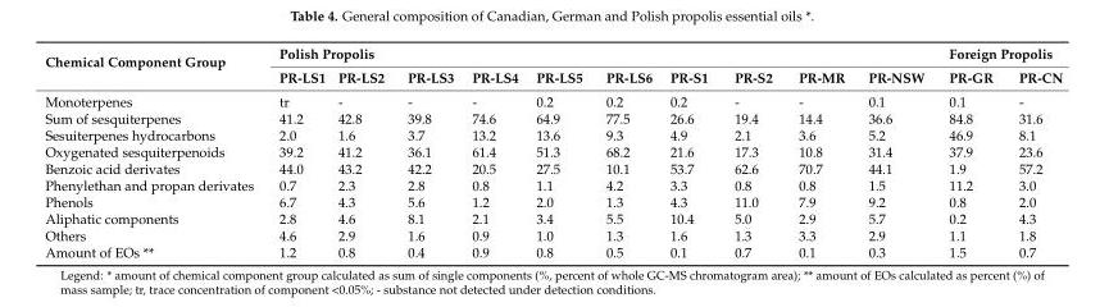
<table><thead><tr><td rowspan="2">Chemical Component Group</td><td colspan="10">Polish Propolis</td><td colspan="2">Foreign Propolis</td></tr><tr><td>PR-LS1</td><td>PR-LS2</td><td>PR-LS3</td><td>PR-LS4</td><td>PR-LS5</td><td>PR-LS6</td><td>PR-S1</td><td>PR-S2</td><td>PR-MR</td><td>PR-NSW</td><td>PR-GR</td><td>PR-CN</td></tr></thead><tbody><tr><td>Monoterpenes</td><td>tr</td><td>-</td><td>-</td><td>-</td><td>0.2</td><td>0.2</td><td>0.2</td><td>-</td><td>-</td><td>0.1</td><td>0.1</td><td>-</td></tr><tr><td>Sum of sesquiterpenes</td><td>41.2</td><td>42.8</td><td>39.8</td><td>74.6</td><td>64.9</td><td>77.5</td><td>26.6</td><td>19.4</td><td>14.4</td><td>36.6</td><td>84.8</td><td>31.6</td></tr><tr><td>Sesuiterpenes hydrocarbons</td><td>2.0</td><td>1.6</td><td>3.7</td><td>13.2</td><td>13.6</td><td>9.3</td><td>4.9</td><td>2.1</td><td>3.6</td><td>5.2</td><td>46.9</td><td>8.1</td></tr><tr><td>Oxygenated sesquiterpenoids</td><td>39.2</td><td>41.2</td><td>36.1</td><td>61.4</td><td>51.3</td><td>68.2</td><td>21.6</td><td>17.3</td><td>10.8</td><td>31.4</td><td>37.9</td><td>23.6</td></tr><tr><td>Benzoic acid derivates</td><td>44.0</td><td>43.2</td><td>42.2</td><td>20.5</td><td>27.5</td><td>10.1</td><td>53.7</td><td>62.6</td><td>70.7</td><td>44.1</td><td>1.9</td><td>57.2</td></tr><tr><td>Phenylethan and propan derivates</td><td>0.7</td><td>2.3</td><td>2.8</td><td>0.8</td><td>1.1</td><td>4.2</td><td>3.3</td><td>0.8</td><td>0.8</td><td>1.5</td><td>11.2</td><td>3.0</td></tr><tr><td>Phenols</td><td>6.7</td><td>4.3</td><td>5.6</td><td>1.2</td><td>2.0</td><td>1.3</td><td>4.3</td><td>11.0</td><td>7.9</td><td>9.2</td><td>0.8</td><td>2.0</td></tr><tr><td>Aliphatic components</td><td>2.8</td><td>4.6</td><td>8.1</td><td>2.1</td><td>3.4</td><td>5.5</td><td>10.4</td><td>5.0</td><td>2.9</td><td>5.7</td><td>0.2</td><td>4.3</td></tr><tr><td>Others</td><td>4.6</td><td>2.9</td><td>1.6</td><td>0.9</td><td>1.0</td><td>1.3</td><td>1.6</td><td>1.3</td><td>3.3</td><td>2.9</td><td>1.1</td><td>1.8</td></tr><tr><td>Amount of EOs **</td><td>1.2</td><td>0.8</td><td>0.4</td><td>0.9</td><td>0.8</td><td>0.5</td><td>0.1</td><td>0.7</td><td>0.1</td><td>0.3</td><td>1.5</td><td>0.7</td></tr></tbody></table>